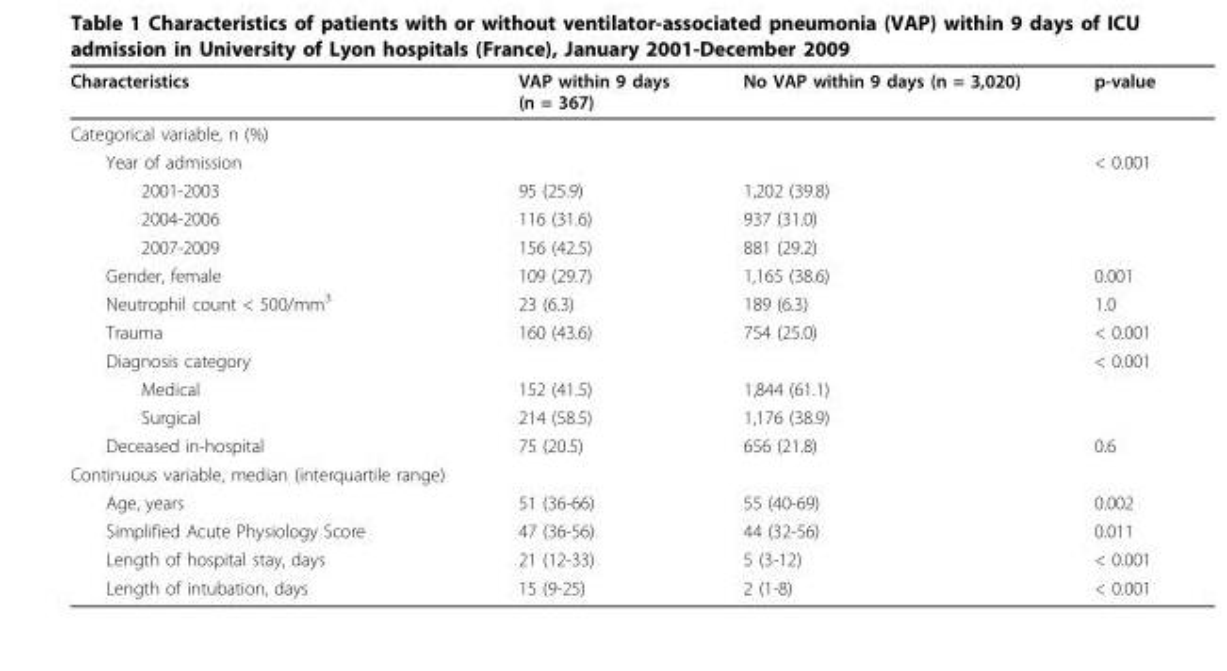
<table><thead><tr><td>Characteristics</td><td>VAP within 9 days (n = 367)</td><td>No VAP within 9 days (n = 3,020)</td><td>p-value</td></tr></thead><tbody><tr><td colspan="4">Categorical variable, n (%)</td></tr><tr><td>Year of admission</td><td></td><td></td><td>&lt; 0.001</td></tr><tr><td>2001-2003</td><td>95 (25.9)</td><td>1,202 (39.8)</td><td></td></tr><tr><td>2004-2006</td><td>116 (31.6)</td><td>937 (31.0)</td><td></td></tr><tr><td>2007-2009</td><td>156 (42.5)</td><td>881 (29.2)</td><td></td></tr><tr><td>Gender, female</td><td>109 (29.7)</td><td>1,165 (38.6)</td><td>0.001</td></tr><tr><td>Neutrophil count &lt; 500/mm<sup>3</sup></td><td>23 (6.3)</td><td>189 (6.3)</td><td>1.0</td></tr><tr><td>Trauma</td><td>160 (43.6)</td><td>754 (25.0)</td><td>&lt; 0.001</td></tr><tr><td>Diagnosis category</td><td></td><td></td><td>&lt; 0.001</td></tr><tr><td>Medical</td><td>152 (41.5)</td><td>1,844 (61.1)</td><td></td></tr><tr><td>Surgical</td><td>214 (58.5)</td><td>1,176 (38.9)</td><td></td></tr><tr><td>Deceased in-hospital</td><td>75 (20.5)</td><td>656 (21.8)</td><td>0.6</td></tr><tr><td colspan="4">Continuous variable, median (interquartile range)</td></tr><tr><td>Age, years</td><td>51 (36-66)</td><td>55 (40-69)</td><td>0.002</td></tr><tr><td>Simplified Acute Physiology Score</td><td>47 (36-56)</td><td>44 (32-56)</td><td>0.011</td></tr><tr><td>Length of hospital stay, days</td><td>21 (12-33)</td><td>5 (3-12)</td><td>&lt; 0.001</td></tr><tr><td>Length of intubation, days</td><td>15 (9-25)</td><td>2 (1-8)</td><td>&lt; 0.001</td></tr></tbody></table>